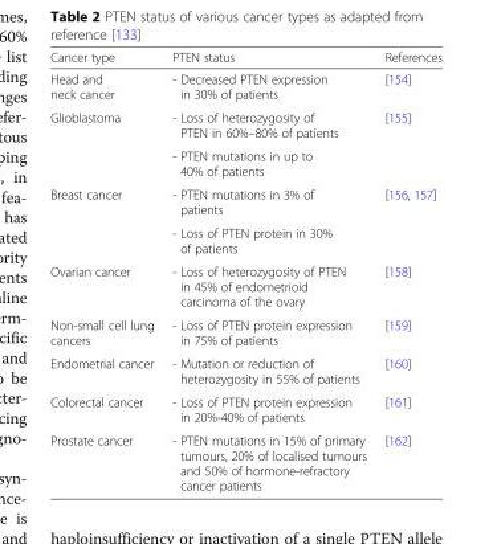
<table><thead><tr><td>Cancer type</td><td>PTEN status</td><td>References</td></tr></thead><tbody><tr><td>Head and neck cancer</td><td>- Decreased PTEN expression in 30% of patients</td><td>[154]</td></tr><tr><td rowspan="2">Glioblastoma</td><td>- Loss of heterozygosity of PTEN in 60%–80% of patients</td><td rowspan="2">[155]</td></tr><tr><td>- PTEN mutations in up to 40% of patients</td></tr><tr><td rowspan="2">Breast cancer</td><td>- PTEN mutations in 3% of patients</td><td rowspan="2">[156, 157]</td></tr><tr><td>- Loss of PTEN protein in 30% of patients</td></tr><tr><td>Ovarian cancer</td><td>- Loss of heterozygosity of PTEN in 45% of endometrioid carcinoma of the ovary</td><td>[158]</td></tr><tr><td>Non-small cell lung cancers</td><td>- Loss of PTEN protein expression in 75% of patients</td><td>[159]</td></tr><tr><td>Endometrial cancer</td><td>- Mutation or reduction of heterozygosity in 55% of patients</td><td>[160]</td></tr><tr><td>Colorectal cancer</td><td>- Loss of PTEN protein expression in 20%-40% of patients</td><td>[161]</td></tr><tr><td>Prostate cancer</td><td>- PTEN mutations in 15% of primary tumours, 20% of localised tumours and 50% of hormone-refractory cancer patients</td><td>[162]</td></tr></tbody></table>